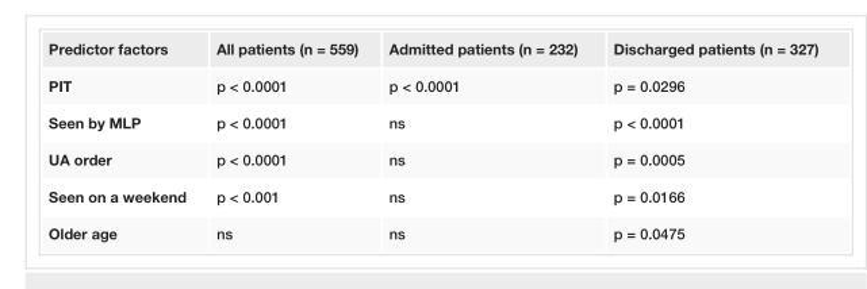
<table><tbody><tr><td>Predictor factors</td><td>All patients (n = 559)</td><td>Admitted patients (n = 232)</td><td>Discharged patients (n = 327)</td></tr><tr><td>PIT</td><td>p &lt; 0.0001</td><td>p &lt; 0.0001</td><td>p = 0.0296</td></tr><tr><td>Seen by MLP</td><td>p &lt; 0.0001</td><td>ns</td><td>p &lt; 0.0001</td></tr><tr><td>UA order</td><td>p &lt; 0.0001</td><td>ns</td><td>p = 0.0005</td></tr><tr><td>Seen on a weekend</td><td>p &lt; 0.001</td><td>ns</td><td>p = 0.0166</td></tr><tr><td>Older age</td><td>ns</td><td>ns</td><td>p = 0.0475</td></tr></tbody></table>